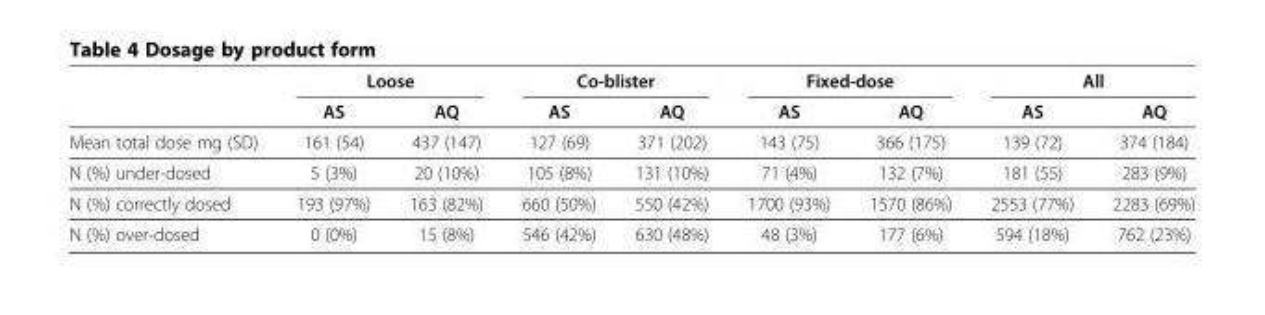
<table><thead><tr><td rowspan="2"></td><td colspan="2">Loose</td><td colspan="2">Co-blister</td><td colspan="2">Fixed-dose</td><td colspan="2">All</td></tr><tr><td>AS</td><td>AQ</td><td>AS</td><td>AQ</td><td>AS</td><td>AQ</td><td>AS</td><td>AQ</td></tr></thead><tbody><tr><td>Mean total dose mg (SD)</td><td>161 (54)</td><td>437 (147)</td><td>127 (69)</td><td>371 (202)</td><td>143 (75)</td><td>366 (175)</td><td>139 (72)</td><td>374 (184)</td></tr><tr><td>N (%) under-dosed</td><td>5 (3%)</td><td>20 (10%)</td><td>105 (8%)</td><td>131 (10%)</td><td>71 (4%)</td><td>132 (7%)</td><td>181 (55)</td><td>283 (9%)</td></tr><tr><td>N (%) correctly dosed</td><td>193 (97%)</td><td>163 (82%)</td><td>660 (50%)</td><td>550 (42%)</td><td>1700 (93%)</td><td>1570 (86%)</td><td>2553 (77%)</td><td>2283 (69%)</td></tr><tr><td>N (%) over-dosed</td><td>0 (0%)</td><td>15 (8%)</td><td>546 (42%)</td><td>630 (48%)</td><td>48 (3%)</td><td>177 (6%)</td><td>594 (18%)</td><td>762 (23%)</td></tr></tbody></table>